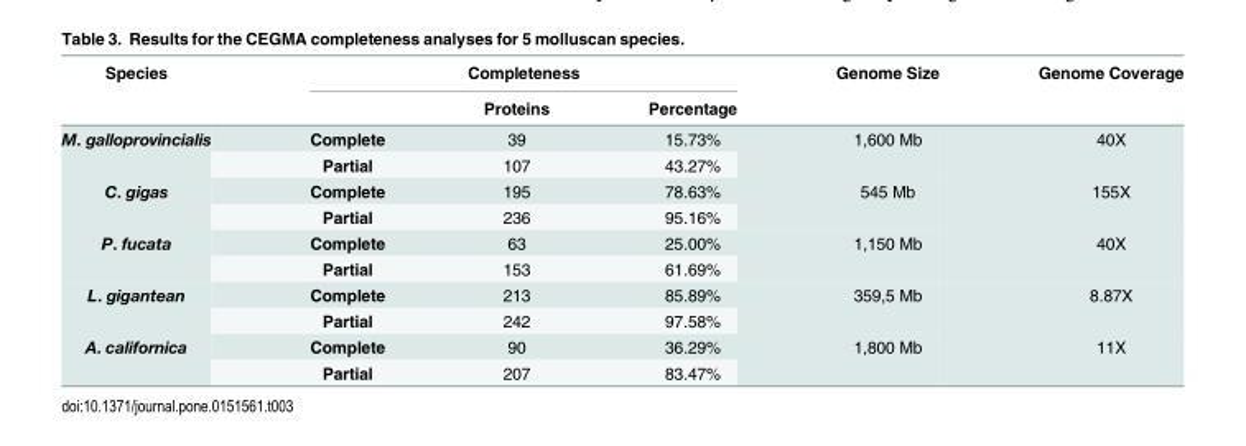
<table><thead><tr><td rowspan="2">Species</td><td colspan="3">Completeness</td><td rowspan="2">Genome Size</td><td rowspan="2">Genome Coverage</td></tr><tr><td></td><td>Proteins</td><td>Percentage</td></tr></thead><tbody><tr><td rowspan="2">M. galloprovincialis</td><td>Complete</td><td>39</td><td>15.73%</td><td rowspan="2">1,600 Mb</td><td rowspan="2">40X</td></tr><tr><td>Partial</td><td>107</td><td>43.27%</td></tr><tr><td rowspan="2">C. gigas</td><td>Complete</td><td>195</td><td>78.63%</td><td rowspan="2">545 Mb</td><td rowspan="2">155X</td></tr><tr><td>Partial</td><td>236</td><td>95.16%</td></tr><tr><td rowspan="2">P. fucata</td><td>Complete</td><td>63</td><td>25.00%</td><td rowspan="2">1,150 Mb</td><td rowspan="2">40X</td></tr><tr><td>Partial</td><td>153</td><td>61.69%</td></tr><tr><td rowspan="2">L. gigantean</td><td>Complete</td><td>213</td><td>85.89%</td><td rowspan="2">359,5 Mb</td><td rowspan="2">8.87X</td></tr><tr><td>Partial</td><td>242</td><td>97.58%</td></tr><tr><td rowspan="2">A. californica</td><td>Complete</td><td>90</td><td>36.29%</td><td rowspan="2">1,800 Mb</td><td rowspan="2">11X</td></tr><tr><td>Partial</td><td>207</td><td>83.47%</td></tr></tbody></table>